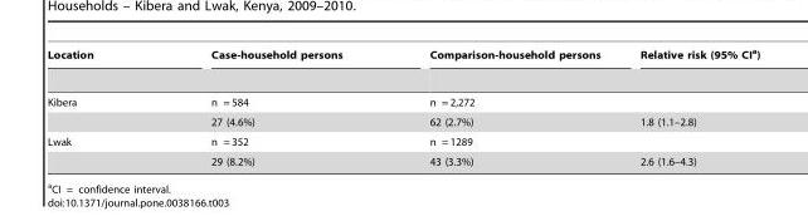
<table><thead><tr><td>Location</td><td>Case-household persons</td><td>Comparison-household persons</td><td>Relative risk (95% CI<sup>a</sup>)</td></tr></thead><tbody><tr><td rowspan="2">Kibera</td><td>n = 584</td><td>n = 2,272</td><td></td></tr><tr><td>27 (4.6%)</td><td>62 (2.7%)</td><td>1.8 (1.1–2.8)</td></tr><tr><td rowspan="2">Lwak</td><td>n = 352</td><td>n = 1289</td><td></td></tr><tr><td>29 (8.2%)</td><td>43 (3.3%)</td><td>2.6 (1.6–4.3)</td></tr></tbody></table>